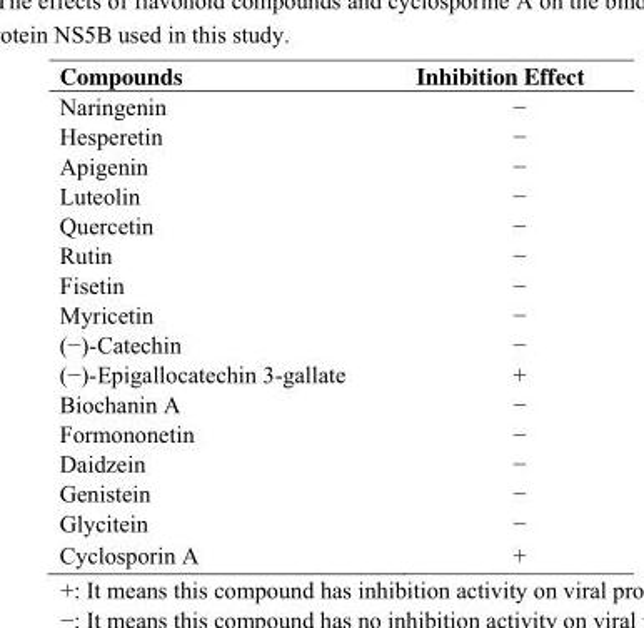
<table><thead><tr><td>Compounds</td><td>Inhibition Effect</td></tr></thead><tbody><tr><td>Naringenin</td><td>−</td></tr><tr><td>Hesperetin</td><td>−</td></tr><tr><td>Apigenin</td><td>−</td></tr><tr><td>Luteolin</td><td>−</td></tr><tr><td>Quercetin</td><td>−</td></tr><tr><td>Rutin</td><td>−</td></tr><tr><td>Fisetin</td><td>−</td></tr><tr><td>Myricetin</td><td>−</td></tr><tr><td>(−)-Catechin</td><td>−</td></tr><tr><td>(−)-Epigallocatechin 3-gallate</td><td>+</td></tr><tr><td>Biochanin A</td><td>−</td></tr><tr><td>Formononetin</td><td>−</td></tr><tr><td>Daidzein</td><td>−</td></tr><tr><td>Genistein</td><td>−</td></tr><tr><td>Glycitein</td><td>−</td></tr><tr><td>Cyclosporin A</td><td>+</td></tr></tbody></table>